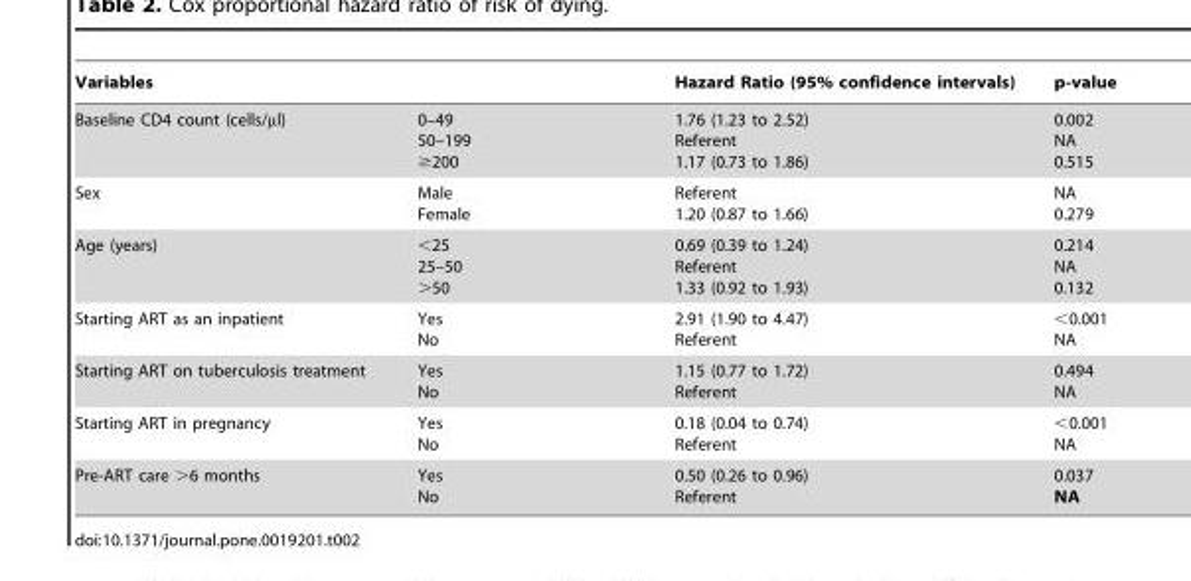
<table><thead><tr><td colspan="2">Variables</td><td rowspan="2">Hazard Ratio (95% confidence intervals) 1.76 (1.23 to 2.52) Referent 1.17 (0.73 to 1.86)</td><td rowspan="2">p-value 0.002 NA 0.515</td></tr><tr><td>Baseline CD4 count (cells/µl)</td><td>0–49 50–199 ≥200</td></tr></thead><tbody><tr><td>Sex</td><td>Male Female</td><td>Referent 1.20 (0.87 to 1.66)</td><td>NA 0.279</td></tr><tr><td>Age (years)</td><td>&lt;25 25–50 &gt;50</td><td>0.69 (0.39 to 1.24) Referent 1.33 (0.92 to 1.93)</td><td>0.214 NA 0.132</td></tr><tr><td>Starting ART as an inpatient</td><td>Yes No</td><td>2.91 (1.90 to 4.47) Referent</td><td>&lt;0.001 NA</td></tr><tr><td>Starting ART on tuberculosis treatment</td><td>Yes No</td><td>1.15 (0.77 to 1.72) Referent</td><td>0.494 NA</td></tr><tr><td>Starting ART in pregnancy</td><td>Yes No</td><td>0.18 (0.04 to 0.74) Referent</td><td>&lt;0.001 NA</td></tr><tr><td>Pre-ART care &gt;6 months</td><td>Yes No</td><td>0.50 (0.26 to 0.96) Referent</td><td>0.037 NA</td></tr></tbody></table>